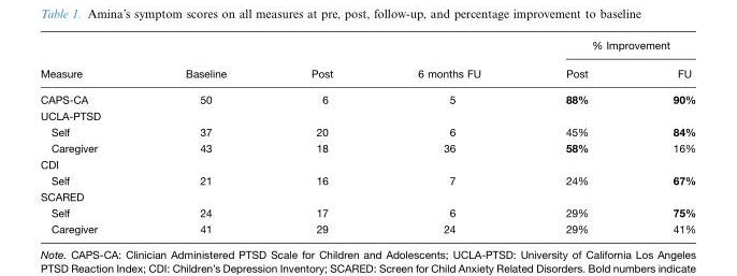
<table><thead><tr><td rowspan="2">Measure</td><td rowspan="2">Baseline</td><td rowspan="2">Post</td><td rowspan="2">6 months FU</td><td colspan="2">% Improvement</td></tr><tr><td>Post</td><td>FU</td></tr></thead><tbody><tr><td>CAPS-CA</td><td>50</td><td>6</td><td>5</td><td>88%</td><td>90%</td></tr><tr><td colspan="6">UCLA-PTSD</td></tr><tr><td>Self</td><td>37</td><td>20</td><td>6</td><td>45%</td><td>84%</td></tr><tr><td>Caregiver</td><td>43</td><td>18</td><td>36</td><td>58%</td><td>16%</td></tr><tr><td colspan="6">CDI</td></tr><tr><td>Self</td><td>21</td><td>16</td><td>7</td><td>24%</td><td>67%</td></tr><tr><td colspan="6">SCARED</td></tr><tr><td>Self</td><td>24</td><td>17</td><td>6</td><td>29%</td><td>75%</td></tr><tr><td>Caregiver</td><td>41</td><td>29</td><td>24</td><td>29%</td><td>41%</td></tr></tbody></table>